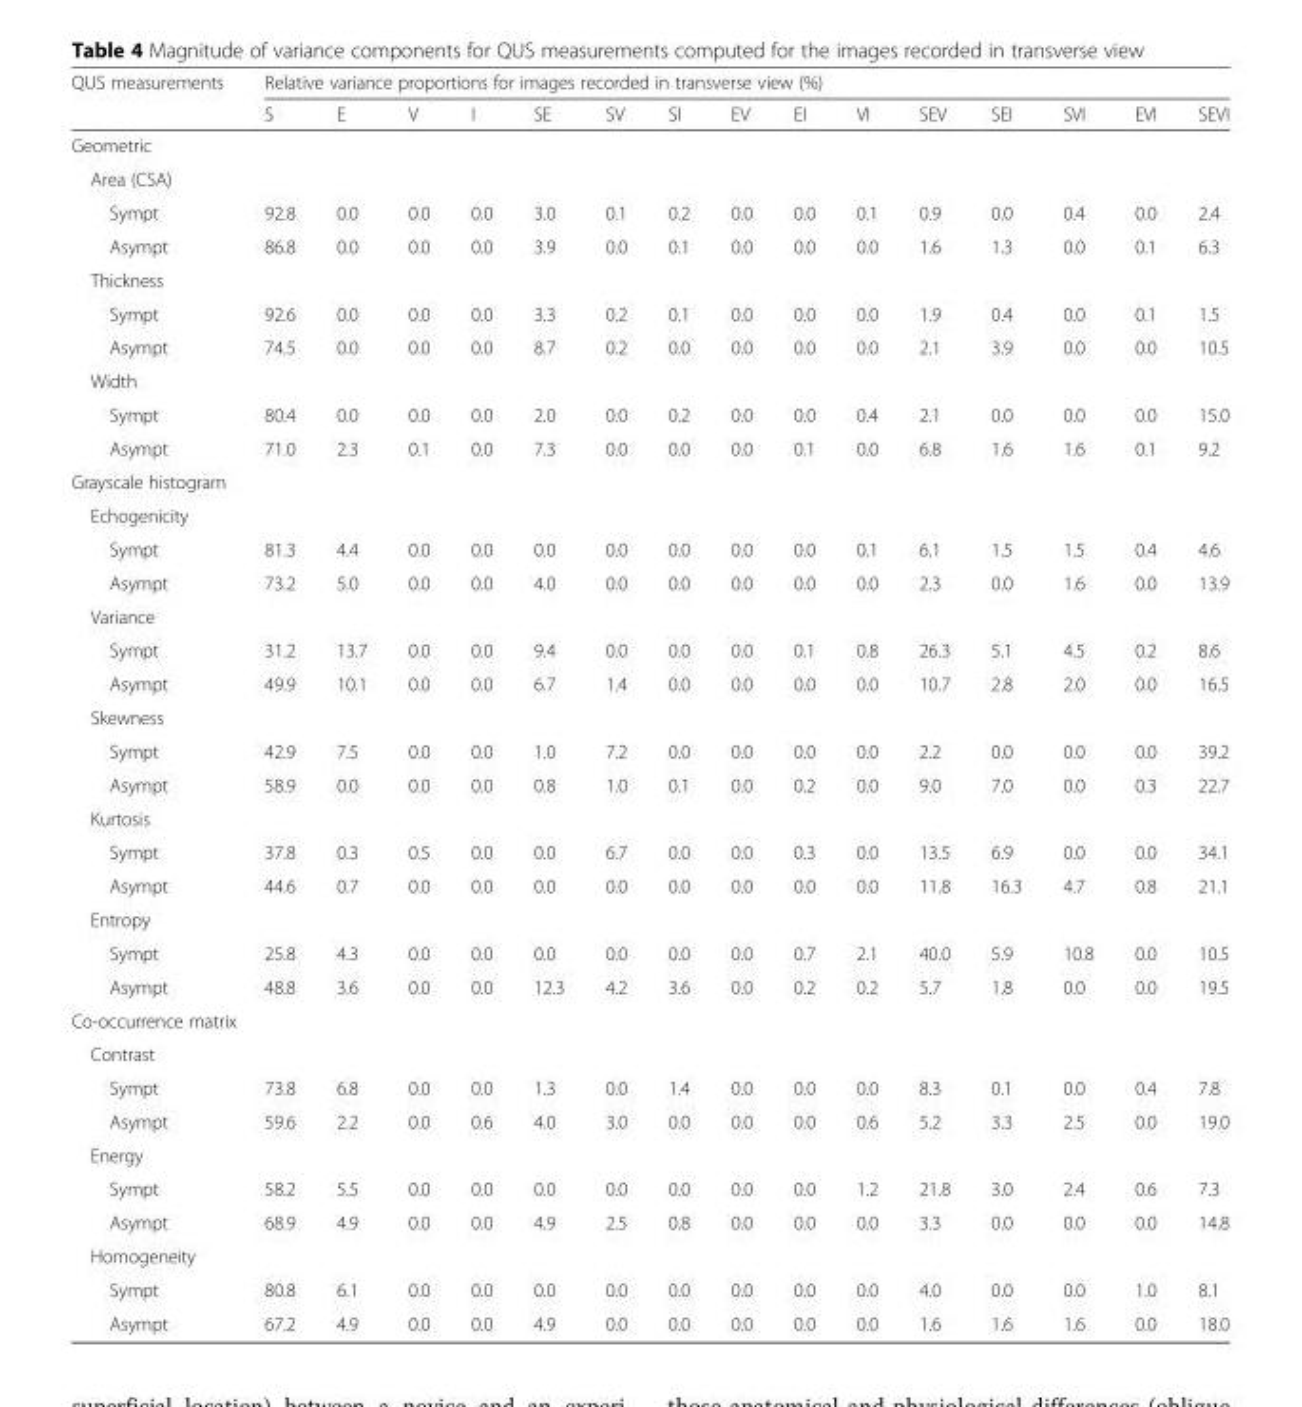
<table><thead><tr><td rowspan="2">QUS measurements</td><td colspan="15">Relative variance proportions for images recorded in transverse view (%)</td></tr><tr><td>S</td><td>E</td><td>V</td><td>I</td><td>SE</td><td>SV</td><td>SI</td><td>EV</td><td>EI</td><td>VI</td><td>SEV</td><td>SEI</td><td>SVI</td><td>EVI</td><td>SEVI</td></tr></thead><tbody><tr><td colspan="16">Geometric</td></tr><tr><td colspan="16">Area (CSA)</td></tr><tr><td>Sympt</td><td>92.8</td><td>0.0</td><td>0.0</td><td>0.0</td><td>3.0</td><td>0.1</td><td>0.2</td><td>0.0</td><td>0.0</td><td>0.1</td><td>0.9</td><td>0.0</td><td>0.4</td><td>0.0</td><td>2.4</td></tr><tr><td>Asympt</td><td>86.8</td><td>0.0</td><td>0.0</td><td>0.0</td><td>3.9</td><td>0.0</td><td>0.1</td><td>0.0</td><td>0.0</td><td>0.0</td><td>1.6</td><td>1.3</td><td>0.0</td><td>0.1</td><td>6.3</td></tr><tr><td colspan="16">Thickness</td></tr><tr><td>Sympt</td><td>92.6</td><td>0.0</td><td>0.0</td><td>0.0</td><td>3.3</td><td>0.2</td><td>0.1</td><td>0.0</td><td>0.0</td><td>0.0</td><td>1.9</td><td>0.4</td><td>0.0</td><td>0.1</td><td>1.5</td></tr><tr><td>Asympt</td><td>74.5</td><td>0.0</td><td>0.0</td><td>0.0</td><td>8.7</td><td>0.2</td><td>0.0</td><td>0.0</td><td>0.0</td><td>0.0</td><td>2.1</td><td>3.9</td><td>0.0</td><td>0.0</td><td>10.5</td></tr><tr><td colspan="16">Width</td></tr><tr><td>Sympt</td><td>80.4</td><td>0.0</td><td>0.0</td><td>0.0</td><td>2.0</td><td>0.0</td><td>0.2</td><td>0.0</td><td>0.0</td><td>0.4</td><td>2.1</td><td>0.0</td><td>0.0</td><td>0.0</td><td>15.0</td></tr><tr><td>Asympt</td><td>71.0</td><td>2.3</td><td>0.1</td><td>0.0</td><td>7.3</td><td>0.0</td><td>0.0</td><td>0.0</td><td>0.1</td><td>0.0</td><td>6.8</td><td>1.6</td><td>1.6</td><td>0.1</td><td>9.2</td></tr><tr><td colspan="16">Grayscale histogram</td></tr><tr><td colspan="16">Echogenicity</td></tr><tr><td>Sympt</td><td>81.3</td><td>4.4</td><td>0.0</td><td>0.0</td><td>0.0</td><td>0.0</td><td>0.0</td><td>0.0</td><td>0.0</td><td>0.1</td><td>6.1</td><td>1.5</td><td>1.5</td><td>0.4</td><td>4.6</td></tr><tr><td>Asympt</td><td>73.2</td><td>5.0</td><td>0.0</td><td>0.0</td><td>4.0</td><td>0.0</td><td>0.0</td><td>0.0</td><td>0.0</td><td>0.0</td><td>2.3</td><td>0.0</td><td>1.6</td><td>0.0</td><td>13.9</td></tr><tr><td colspan="16">Variance</td></tr><tr><td>Sympt</td><td>31.2</td><td>13.7</td><td>0.0</td><td>0.0</td><td>9.4</td><td>0.0</td><td>0.0</td><td>0.0</td><td>0.1</td><td>0.8</td><td>26.3</td><td>5.1</td><td>4.5</td><td>0.2</td><td>8.6</td></tr><tr><td>Asympt</td><td>49.9</td><td>10.1</td><td>0.0</td><td>0.0</td><td>6.7</td><td>1.4</td><td>0.0</td><td>0.0</td><td>0.0</td><td>0.0</td><td>10.7</td><td>2.8</td><td>2.0</td><td>0.0</td><td>16.5</td></tr><tr><td colspan="16">Skewness</td></tr><tr><td>Sympt</td><td>42.9</td><td>7.5</td><td>0.0</td><td>0.0</td><td>1.0</td><td>7.2</td><td>0.0</td><td>0.0</td><td>0.0</td><td>0.0</td><td>2.2</td><td>0.0</td><td>0.0</td><td>0.0</td><td>39.2</td></tr><tr><td>Asympt</td><td>58.9</td><td>0.0</td><td>0.0</td><td>0.0</td><td>0.8</td><td>1.0</td><td>0.1</td><td>0.0</td><td>0.2</td><td>0.0</td><td>9.0</td><td>7.0</td><td>0.0</td><td>0.3</td><td>22.7</td></tr><tr><td colspan="16">Kurtosis</td></tr><tr><td>Sympt</td><td>37.8</td><td>0.3</td><td>0.5</td><td>0.0</td><td>0.0</td><td>6.7</td><td>0.0</td><td>0.0</td><td>0.3</td><td>0.0</td><td>13.5</td><td>6.9</td><td>0.0</td><td>0.0</td><td>34.1</td></tr><tr><td>Asympt</td><td>44.6</td><td>0.7</td><td>0.0</td><td>0.0</td><td>0.0</td><td>0.0</td><td>0.0</td><td>0.0</td><td>0.0</td><td>0.0</td><td>11.8</td><td>16.3</td><td>4.7</td><td>0.8</td><td>21.1</td></tr><tr><td colspan="16">Entropy</td></tr><tr><td>Sympt</td><td>25.8</td><td>4.3</td><td>0.0</td><td>0.0</td><td>0.0</td><td>0.0</td><td>0.0</td><td>0.0</td><td>0.7</td><td>2.1</td><td>40.0</td><td>5.9</td><td>10.8</td><td>0.0</td><td>10.5</td></tr><tr><td>Asympt</td><td>48.8</td><td>3.6</td><td>0.0</td><td>0.0</td><td>12.3</td><td>4.2</td><td>3.6</td><td>0.0</td><td>0.2</td><td>0.2</td><td>5.7</td><td>1.8</td><td>0.0</td><td>0.0</td><td>19.5</td></tr><tr><td colspan="16">Co-occurrence matrix</td></tr><tr><td colspan="16">Contrast</td></tr><tr><td>Sympt</td><td>73.8</td><td>6.8</td><td>0.0</td><td>0.0</td><td>1.3</td><td>0.0</td><td>1.4</td><td>0.0</td><td>0.0</td><td>0.0</td><td>8.3</td><td>0.1</td><td>0.0</td><td>0.4</td><td>7.8</td></tr><tr><td>Asympt</td><td>59.6</td><td>2.2</td><td>0.0</td><td>0.6</td><td>4.0</td><td>3.0</td><td>0.0</td><td>0.0</td><td>0.0</td><td>0.6</td><td>5.2</td><td>3.3</td><td>2.5</td><td>0.0</td><td>19.0</td></tr><tr><td colspan="16">Energy</td></tr><tr><td>Sympt</td><td>58.2</td><td>5.5</td><td>0.0</td><td>0.0</td><td>0.0</td><td>0.0</td><td>0.0</td><td>0.0</td><td>0.0</td><td>1.2</td><td>21.8</td><td>3.0</td><td>2.4</td><td>0.6</td><td>7.3</td></tr><tr><td>Asympt</td><td>68.9</td><td>4.9</td><td>0.0</td><td>0.0</td><td>4.9</td><td>2.5</td><td>0.8</td><td>0.0</td><td>0.0</td><td>0.0</td><td>3.3</td><td>0.0</td><td>0.0</td><td>0.0</td><td>14.8</td></tr><tr><td colspan="16">Homogeneity</td></tr><tr><td>Sympt</td><td>80.8</td><td>6.1</td><td>0.0</td><td>0.0</td><td>0.0</td><td>0.0</td><td>0.0</td><td>0.0</td><td>0.0</td><td>0.0</td><td>4.0</td><td>0.0</td><td>0.0</td><td>1.0</td><td>8.1</td></tr><tr><td>Asympt</td><td>67.2</td><td>4.9</td><td>0.0</td><td>0.0</td><td>4.9</td><td>0.0</td><td>0.0</td><td>0.0</td><td>0.0</td><td>0.0</td><td>1.6</td><td>1.6</td><td>1.6</td><td>0.0</td><td>18.0</td></tr></tbody></table>